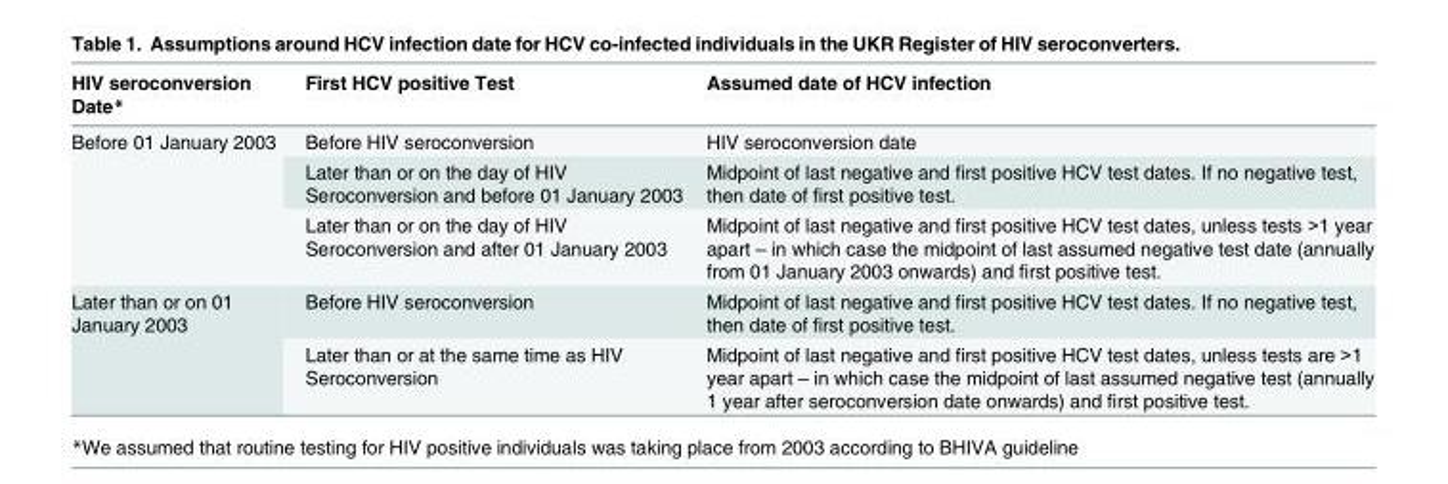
<table><thead><tr><td>HIV seroconversion Date*</td><td>First HCV positive Test</td><td>Assumed date of HCV infection</td></tr></thead><tbody><tr><td rowspan="3">Before 01 January 2003</td><td>Before HIV seroconversion</td><td>HIV seroconversion date</td></tr><tr><td>Later than or on the day of HIV Seroconversion and before 01 January 2003</td><td>Midpoint of last negative and first positive HCV test dates. If no negative test, then date of first positive test.</td></tr><tr><td>Later than or on the day of HIV Seroconversion and after 01 January 2003</td><td>Midpoint of last negative and first positive HCV test dates, unless tests &gt;1 year apart – in which case the midpoint of last assumed negative test date (annually from 01 January 2003 onwards) and first positive test.</td></tr><tr><td rowspan="2">Later than or on 01 January 2003</td><td>Before HIV seroconversion</td><td>Midpoint of last negative and first positive HCV test dates. If no negative test, then date of first positive test.</td></tr><tr><td>Later than or at the same time as HIV Seroconversion</td><td>Midpoint of last negative and first positive HCV test dates, unless tests are &gt;1 year apart – in which case the midpoint of last assumed negative test (annually 1 year after seroconversion date onwards) and first positive test.</td></tr></tbody></table>